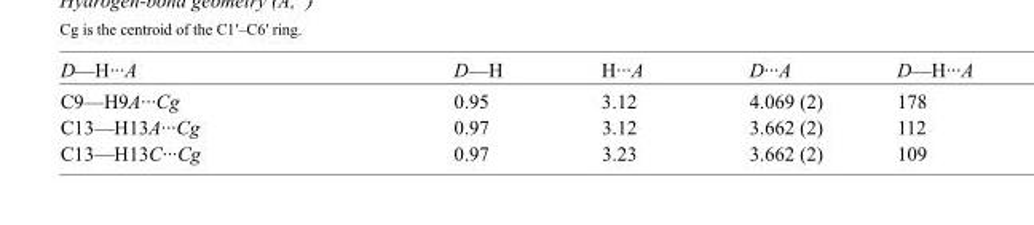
<table><tbody><tr><td>D—H···A</td><td>D—H</td><td>H···A</td><td>D···A</td><td>D—H···A</td></tr><tr><td>C9—H9A···Cg</td><td>0.95</td><td>3.12</td><td>4.069 (2)</td><td>178</td></tr><tr><td>C13—H13A···Cg</td><td>0.97</td><td>3.12</td><td>3.662 (2)</td><td>112</td></tr><tr><td>C13—H13C···Cg</td><td>0.97</td><td>3.23</td><td>3.662 (2)</td><td>109</td></tr></tbody></table>